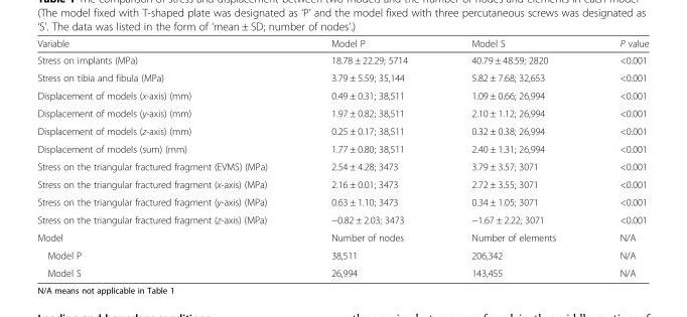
<table><thead><tr><td>Variable</td><td>Model P</td><td>Model S</td><td>P value</td></tr></thead><tbody><tr><td>Stress on implants (MPa)</td><td>18.78 ± 22.29; 5714</td><td>40.79 ± 48.59; 2820</td><td>&lt;0.001</td></tr><tr><td>Stress on tibia and fibula (MPa)</td><td>3.79 ± 5.59; 35,144</td><td>5.82 ± 7.68; 32,653</td><td>&lt;0.001</td></tr><tr><td>Displacement of models (x-axis) (mm)</td><td>0.49 ± 0.31; 38,511</td><td>1.09 ± 0.66; 26,994</td><td>&lt;0.001</td></tr><tr><td>Displacement of models (y-axis) (mm)</td><td>1.97 ± 0.82; 38,511</td><td>2.10 ± 1.12; 26,994</td><td>&lt;0.001</td></tr><tr><td>Displacement of models (z-axis) (mm)</td><td>0.25 ± 0.17; 38,511</td><td>0.32 ± 0.38; 26,994</td><td>&lt;0.001</td></tr><tr><td>Displacement of models (sum) (mm)</td><td>1.77 ± 0.80; 38,511</td><td>2.40 ± 1.31; 26,994</td><td>&lt;0.001</td></tr><tr><td>Stress on the triangular fractured fragment (EVMS) (MPa)</td><td>2.54 ± 4.28; 3473</td><td>3.79 ± 3.57; 3071</td><td>&lt;0.001</td></tr><tr><td>Stress on the triangular fractured fragment (x-axis) (MPa)</td><td>2.16 ± 0.01; 3473</td><td>2.72 ± 3.55; 3071</td><td>&lt;0.001</td></tr><tr><td>Stress on the triangular fractured fragment (y-axis) (MPa)</td><td>0.63 ± 1.10; 3473</td><td>0.34 ± 1.05; 3071</td><td>&lt;0.001</td></tr><tr><td>Stress on the triangular fractured fragment (z-axis) (MPa)</td><td>−0.82 ± 2.03; 3473</td><td>−1.67 ± 2.22; 3071</td><td>&lt;0.001</td></tr><tr><td>Model</td><td>Number of nodes</td><td>Number of elements</td><td>N/A</td></tr><tr><td>Model P</td><td>38,511</td><td>206,342</td><td>N/A</td></tr><tr><td>Model S</td><td>26,994</td><td>143,455</td><td>N/A</td></tr></tbody></table>